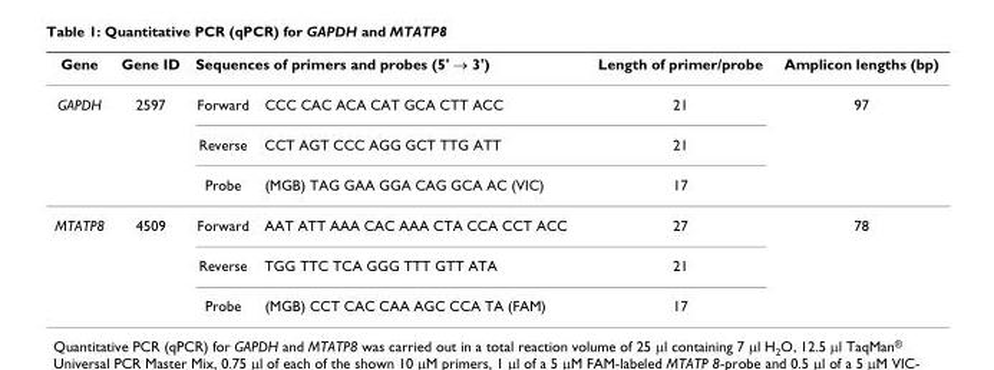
<table><thead><tr><td rowspan="2">Gene GAPDH</td><td rowspan="2">Gene ID 2597</td><td colspan="2">Sequences of primers and probes (5&#x27; → 3&#x27;)</td><td rowspan="2">Length of primer/probe 21</td><td rowspan="2">Amplicon lengths (bp) 97</td></tr><tr><td>Forward</td><td>CCC CAC ACA CAT GCA CTT ACC</td></tr></thead><tbody><tr><td></td><td></td><td>Reverse</td><td>CCT AGT CCC AGG GCT TTG ATT</td><td>21</td><td></td></tr><tr><td></td><td></td><td>Probe</td><td>(MGB) TAG GAA GGA CAG GCA AC (VIC)</td><td>17</td><td></td></tr><tr><td rowspan="3">MTATP8</td><td>4509</td><td>Forward</td><td>AAT ATT AAA CAC AAA CTA CCA CCT ACC</td><td>27</td><td>78</td></tr><tr><td></td><td>Reverse</td><td>TGG TTC TCA GGG TTT GTT ATA</td><td>21</td><td></td></tr><tr><td></td><td>Probe</td><td>(MGB) CCT CAC CAA AGC CCA TA (FAM)</td><td>17</td><td></td></tr></tbody></table>